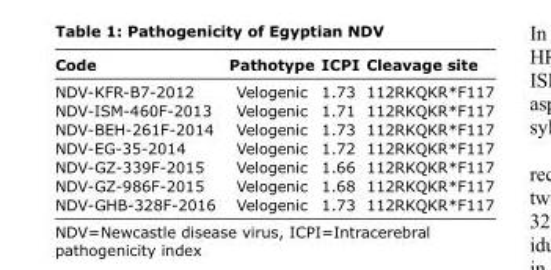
<table><thead><tr><td>Code</td><td>Pathotype</td><td>ICPI</td><td>Cleavage site</td></tr></thead><tbody><tr><td>NDV-KFR-B7-2012</td><td>Velogenic</td><td>1.73</td><td>112RKQKR*F117</td></tr><tr><td>NDV-ISM-460F-2013</td><td>Velogenic</td><td>1.71</td><td>112RKQKR*F117</td></tr><tr><td>NDV-BEH-261F-2014</td><td>Velogenic</td><td>1.73</td><td>112RKQKR*F117</td></tr><tr><td>NDV-EG-35-2014</td><td>Velogenic</td><td>1.72</td><td>112RKQKR*F117</td></tr><tr><td>NDV-GZ-339F-2015</td><td>Velogenic</td><td>1.66</td><td>112RKQKR*F117</td></tr><tr><td>NDV-GZ-986F-2015</td><td>Velogenic</td><td>1.68</td><td>112RKQKR*F117</td></tr><tr><td>NDV-GHB-328F-2016</td><td>Velogenic</td><td>1.73</td><td>112RKQKR*F117</td></tr></tbody></table>